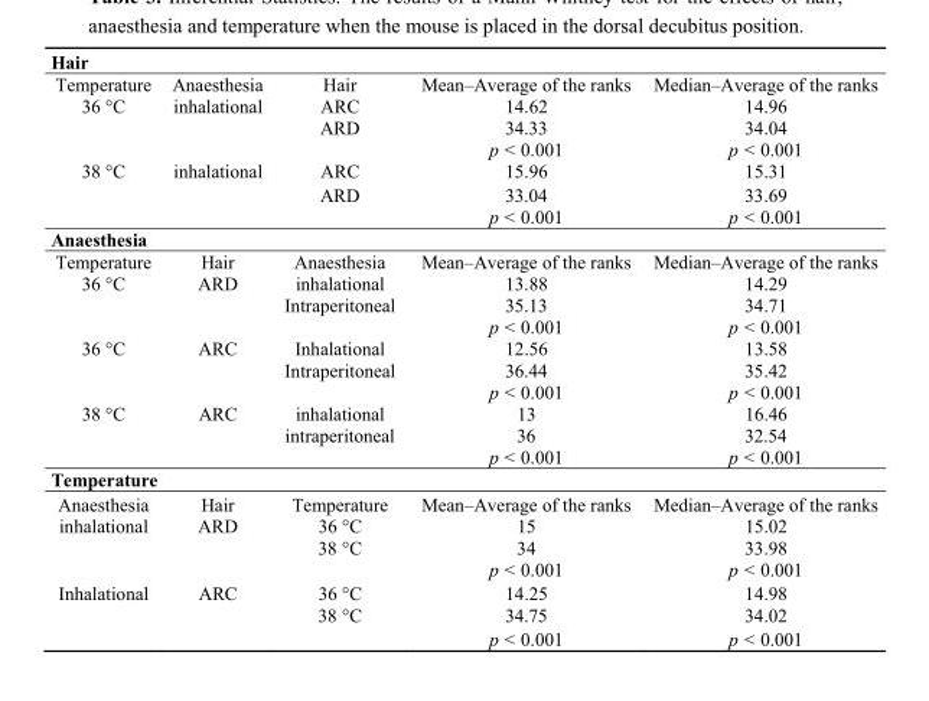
<table><thead><tr><td colspan="5">Hair</td></tr><tr><td>Temperature</td><td>Anaesthesia</td><td>Hair</td><td>Mean–Average of the ranks</td><td>Median–Average of the ranks</td></tr></thead><tbody><tr><td rowspan="3">36 °C</td><td>inhalational</td><td>ARC</td><td>14.62</td><td>14.96</td></tr><tr><td></td><td>ARD</td><td>34.33</td><td>34.04</td></tr><tr><td></td><td></td><td>p &lt; 0.001</td><td>p &lt; 0.001</td></tr><tr><td rowspan="3">38 °C</td><td>inhalational</td><td>ARC</td><td>15.96</td><td>15.31</td></tr><tr><td></td><td>ARD</td><td>33.04</td><td>33.69</td></tr><tr><td></td><td></td><td>p &lt; 0.001</td><td>p &lt; 0.001</td></tr><tr><td colspan="5">Anaesthesia</td></tr><tr><td>Temperature</td><td>Hair</td><td>Anaesthesia</td><td>Mean–Average of the ranks</td><td>Median–Average of the ranks</td></tr><tr><td rowspan="3">36 °C</td><td>ARD</td><td>inhalational</td><td>13.88</td><td>14.29</td></tr><tr><td></td><td>Intraperitoneal</td><td>35.13</td><td>34.71</td></tr><tr><td></td><td></td><td>p &lt; 0.001</td><td>p &lt; 0.001</td></tr><tr><td rowspan="3">36 °C</td><td>ARC</td><td>Inhalational</td><td>12.56</td><td>13.58</td></tr><tr><td></td><td>Intraperitoneal</td><td>36.44</td><td>35.42</td></tr><tr><td></td><td></td><td>p &lt; 0.001</td><td>p &lt; 0.001</td></tr><tr><td rowspan="3">38 °C</td><td>ARC</td><td>inhalational</td><td>13</td><td>16.46</td></tr><tr><td></td><td>intraperitoneal</td><td>36</td><td>32.54</td></tr><tr><td></td><td></td><td>p &lt; 0.001</td><td>p &lt; 0.001</td></tr><tr><td colspan="5">Temperature</td></tr><tr><td>Anaesthesia</td><td>Hair</td><td>Temperature</td><td>Mean–Average of the ranks</td><td>Median–Average of the ranks</td></tr><tr><td rowspan="3">inhalational</td><td>ARD</td><td>36 °C</td><td>15</td><td>15.02</td></tr><tr><td></td><td>38 °C</td><td>34</td><td>33.98</td></tr><tr><td></td><td></td><td>p &lt; 0.001</td><td>p &lt; 0.001</td></tr><tr><td rowspan="3">Inhalational</td><td>ARC</td><td>36 °C</td><td>14.25</td><td>14.98</td></tr><tr><td></td><td>38 °C</td><td>34.75</td><td>34.02</td></tr><tr><td></td><td></td><td>p &lt; 0.001</td><td>p &lt; 0.001</td></tr></tbody></table>